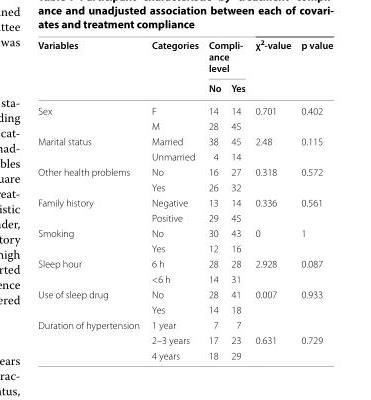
<table><thead><tr><td rowspan="2">Variables</td><td rowspan="2">Categories</td><td colspan="2">Compli- ance level</td><td rowspan="2">χ<sup>2</sup>-value</td><td rowspan="2">p value</td></tr><tr><td>No</td><td>Yes</td></tr></thead><tbody><tr><td rowspan="2">Sex</td><td>F</td><td>14</td><td>14</td><td>0.701</td><td>0.402</td></tr><tr><td>M</td><td>28</td><td>45</td><td></td><td></td></tr><tr><td rowspan="2">Marital status</td><td>Married</td><td>38</td><td>45</td><td>2.48</td><td>0.115</td></tr><tr><td>Unmarried</td><td>4</td><td>14</td><td></td><td></td></tr><tr><td rowspan="2">Other health problems</td><td>No</td><td>16</td><td>27</td><td>0.318</td><td>0.572</td></tr><tr><td>Yes</td><td>26</td><td>32</td><td></td><td></td></tr><tr><td rowspan="2">Family history</td><td>Negative</td><td>13</td><td>14</td><td>0.336</td><td>0.561</td></tr><tr><td>Positive</td><td>29</td><td>45</td><td></td><td></td></tr><tr><td rowspan="2">Smoking</td><td>No</td><td>30</td><td>43</td><td>0</td><td>1</td></tr><tr><td>Yes</td><td>12</td><td>16</td><td></td><td></td></tr><tr><td rowspan="2">Sleep hour</td><td>6 h</td><td>28</td><td>28</td><td>2.928</td><td>0.087</td></tr><tr><td>&lt;6 h</td><td>14</td><td>31</td><td></td><td></td></tr><tr><td rowspan="2">Use of sleep drug</td><td>No</td><td>28</td><td>41</td><td>0.007</td><td>0.933</td></tr><tr><td>Yes</td><td>14</td><td>18</td><td></td><td></td></tr><tr><td rowspan="3">Duration of hypertension</td><td>1 year</td><td>7</td><td>7</td><td></td><td></td></tr><tr><td>2–3 years</td><td>17</td><td>23</td><td>0.631</td><td>0.729</td></tr><tr><td>4 years</td><td>18</td><td>29</td><td></td><td></td></tr></tbody></table>